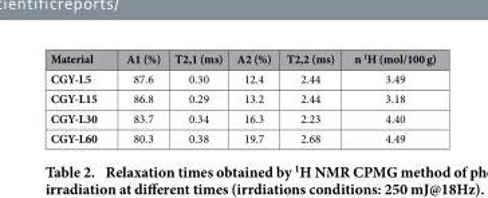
<table><thead><tr><td>Material</td><td>A1 (%)</td><td>T2,1 (ms)</td><td>A2 (%)</td><td>T2,2 (ms)</td><td>n <sup>1</sup>H (mol/100 g)</td></tr></thead><tbody><tr><td>CGY-L5</td><td>87.6</td><td>0.30</td><td>12.4</td><td>2.44</td><td>3.49</td></tr><tr><td>CGY-L15</td><td>86.8</td><td>0.29</td><td>13.2</td><td>2.44</td><td>3.18</td></tr><tr><td>CGY-L30</td><td>83.7</td><td>0.34</td><td>16.3</td><td>2.23</td><td>4.40</td></tr><tr><td>CGY-L60</td><td>80.3</td><td>0.38</td><td>19.7</td><td>2.68</td><td>4.49</td></tr></tbody></table>